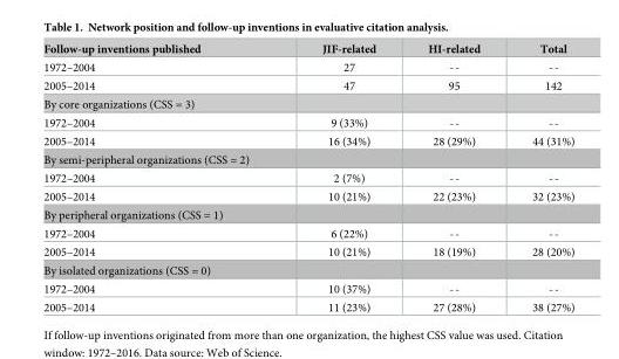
<table><thead><tr><td>Follow-up inventions published</td><td>JIF-related</td><td>HI-related</td><td>Total</td></tr></thead><tbody><tr><td>1972–2004</td><td>27</td><td>--</td><td>--</td></tr><tr><td>2005–2014</td><td>47</td><td>95</td><td>142</td></tr><tr><td colspan="4">By core organizations (CSS = 3)</td></tr><tr><td>1972–2004</td><td>9 (33%)</td><td>--</td><td>--</td></tr><tr><td>2005–2014</td><td>16 (34%)</td><td>28 (29%)</td><td>44 (31%)</td></tr><tr><td colspan="4">By semi-peripheral organizations (CSS = 2)</td></tr><tr><td>1972–2004</td><td>2 (7%)</td><td>--</td><td>--</td></tr><tr><td>2005–2014</td><td>10 (21%)</td><td>22 (23%)</td><td>32 (23%)</td></tr><tr><td colspan="4">By peripheral organizations (CSS = 1)</td></tr><tr><td>1972–2004</td><td>6 (22%)</td><td>--</td><td>--</td></tr><tr><td>2005–2014</td><td>10 (21%)</td><td>18 (19%)</td><td>28 (20%)</td></tr><tr><td colspan="4">By isolated organizations (CSS = 0)</td></tr><tr><td>1972–2004</td><td>10 (37%)</td><td>--</td><td>--</td></tr><tr><td>2005–2014</td><td>11 (23%)</td><td>27 (28%)</td><td>38 (27%)</td></tr></tbody></table>